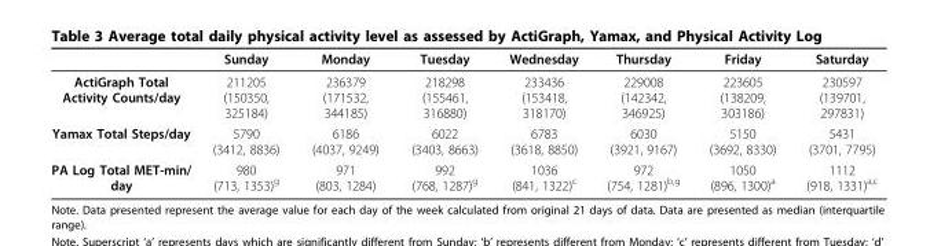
<table><thead><tr><td></td><td>Sunday</td><td>Monday</td><td>Tuesday</td><td>Wednesday</td><td>Thursday</td><td>Friday</td><td>Saturday</td></tr></thead><tbody><tr><td>ActiGraph Total Activity Counts/day</td><td>211205 (150350, 325184)</td><td>236379 (171532, 344185)</td><td>218298 (155461, 316880)</td><td>233436 (153418, 318170)</td><td>229008 (142342, 346925)</td><td>223605 (138209, 303186)</td><td>230597 (139701, 297831)</td></tr><tr><td>Yamax Total Steps/day</td><td>5790 (3412, 8836)</td><td>6186 (4037, 9249)</td><td>6022 (3403, 8663)</td><td>6783 (3618, 8850)</td><td>6030 (3921, 9167)</td><td>5150 (3692, 8330)</td><td>5431 (3701, 7795)</td></tr><tr><td>PA Log Total MET-min/ day</td><td>980 (713, 1353)<sup>g</sup></td><td>971 (803, 1284)</td><td>992 (768, 1287)<sup>g</sup></td><td>1036 (841, 1322)<sup>c</sup></td><td>972 (754, 1281)<sup>b,g</sup></td><td>1050 (896, 1300)<sup>a</sup></td><td>1112 (918, 1331)<sup>a,c</sup></td></tr></tbody></table>